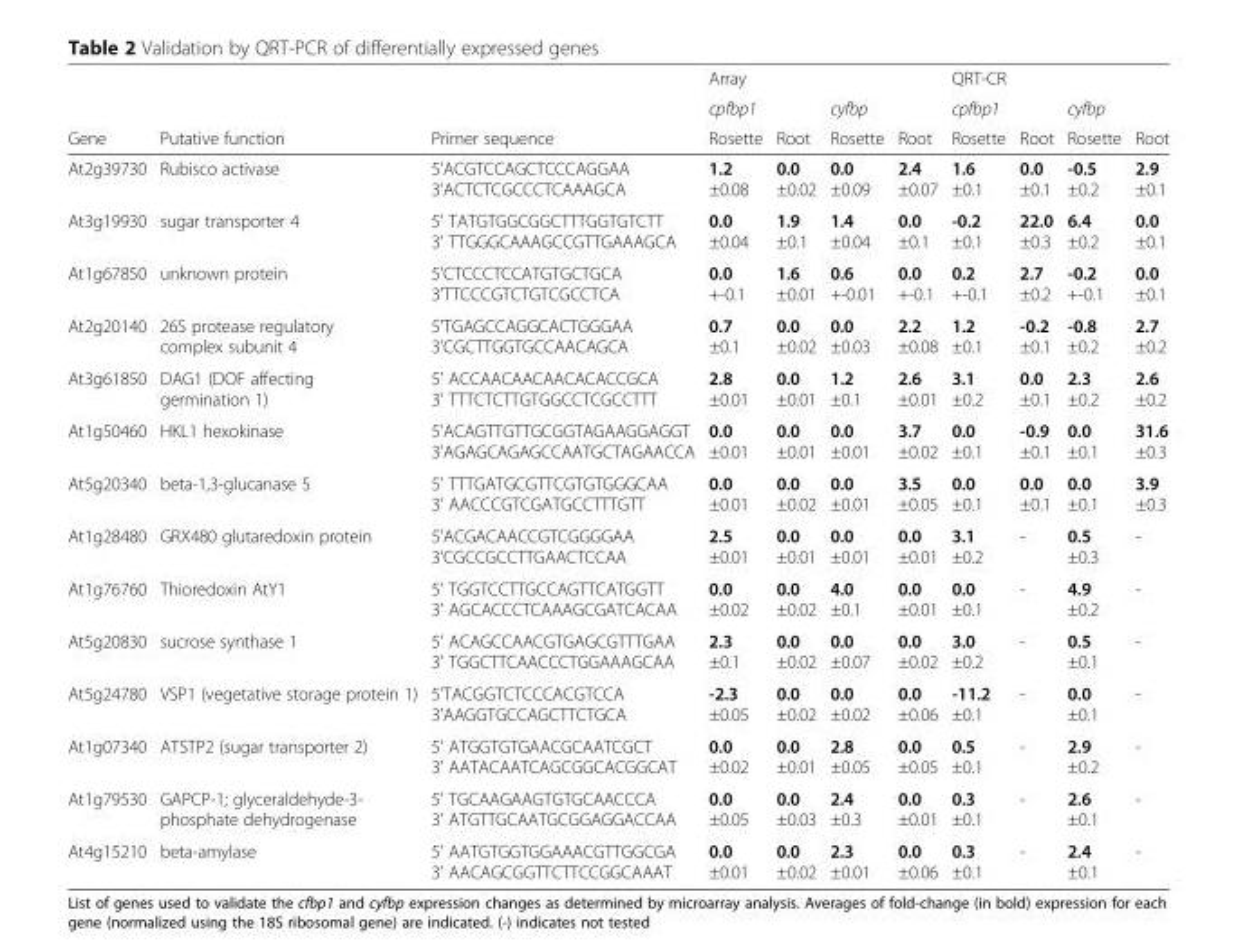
<table><thead><tr><td rowspan="3">Gene</td><td rowspan="3">Putative function</td><td rowspan="3">Primer sequence</td><td rowspan="3">Array cpfbp1 Rosette</td><td rowspan="3">Root</td><td rowspan="3">cyfbp Rosette</td><td rowspan="3">Root</td><td rowspan="3">QRT-CR cpfbp1 Rosette</td><td rowspan="3">Root</td><td rowspan="3">cyfbp Rosette</td><td rowspan="3">Root</td></tr><tr></tr><tr></tr></thead><tbody><tr><td>At2g39730</td><td>Rubisco activase</td><td>5&#x27;ACGTCCAGCTCCCAGGAA 3&#x27;ACTCTCGCCCTCAAAGCA</td><td>1.2 ±0.08</td><td>0.0 ±0.02</td><td>0.0 ±0.09</td><td>2.4 ±0.07</td><td>1.6 ±0.1</td><td>0.0 ±0.1</td><td>-0.5 ±0.2</td><td>2.9 ±0.1</td></tr><tr><td>At3g19930</td><td>sugar transporter 4</td><td>5&#x27; TATGTGGCGGCTTTGGTGTCTT 3&#x27; TTGGGCAAAGCCGTTGAAAGCA</td><td>0.0 ±0.04</td><td>1.9 ±0.1</td><td>1.4 ±0.04</td><td>0.0 ±0.1</td><td>-0.2 ±0.1</td><td>22.0 ±0.3</td><td>6.4 ±0.2</td><td>0.0 ±0.1</td></tr><tr><td>At1g67850</td><td>unknown protein</td><td>5&#x27;CTCCCTCCATGTGCTGCA 3&#x27;TTCCCGTCTGTCGCCTCA</td><td>0.0 +-0.1</td><td>1.6 ±0.01</td><td>0.6 +-0.01</td><td>0.0 +-0.1</td><td>0.2 +-0.1</td><td>2.7 ±0.2</td><td>-0.2 +-0.1</td><td>0.0 ±0.1</td></tr><tr><td>At2g20140</td><td>26S protease regulatory complex subunit 4</td><td>5&#x27;TGAGCCAGGCACTGGGAA 3&#x27;CGCTTGGTGCCAACAGCA</td><td>0.7 ±0.1</td><td>0.0 ±0.02</td><td>0.0 ±0.03</td><td>2.2 ±0.08</td><td>1.2 ±0.1</td><td>-0.2 ±0.1</td><td>-0.8 ±0.2</td><td>2.7 ±0.2</td></tr><tr><td>At3g61850</td><td>DAG1 (DOF affecting germination 1)</td><td>5&#x27; ACCAACAACAACACACCGCA 3&#x27; TTTCTCTTGTGGCCTCGCCTTT</td><td>2.8 ±0.01</td><td>0.0 ±0.01</td><td>1.2 ±0.1</td><td>2.6 ±0.01</td><td>3.1 ±0.2</td><td>0.0 ±0.1</td><td>2.3 ±0.2</td><td>2.6 ±0.2</td></tr><tr><td>At1g50460</td><td>HKL1 hexokinase</td><td>5&#x27;ACAGTTGTTGCGGTAGAAGGAGGT 3&#x27;AGAGCAGAGCCAATGCTAGAACCA</td><td>0.0 ±0.01</td><td>0.0 ±0.01</td><td>0.0 ±0.01</td><td>3.7 ±0.02</td><td>0.0 ±0.1</td><td>-0.9 ±0.1</td><td>0.0 ±0.1</td><td>31.6 ±0.3</td></tr><tr><td>At5g20340</td><td>beta-1,3-glucanase 5</td><td>5&#x27; TTTGATGCGTTCGTGTGGGCAA 3&#x27; AACCCGTCGATGCCTTTGTT</td><td>0.0 ±0.01</td><td>0.0 ±0.02</td><td>0.0 ±0.01</td><td>3.5 ±0.05</td><td>0.0 ±0.1</td><td>0.0 ±0.1</td><td>0.0 ±0.1</td><td>3.9 ±0.3</td></tr><tr><td>At1g28480</td><td>GRX480 glutaredoxin protein</td><td>5&#x27;ACGACAACCGTCGGGGAA 3&#x27;CGCCGCCTTGAACTCCAA</td><td>2.5 ±0.01</td><td>0.0 ±0.01</td><td>0.0 ±0.01</td><td>0.0 ±0.01</td><td>3.1 ±0.2</td><td>-</td><td>0.5 ±0.3</td><td>-</td></tr><tr><td>At1g76760</td><td>Thioredoxin AtY1</td><td>5&#x27; TGGTCCTTGCCAGTTCATGGTT 3&#x27; AGCACCCTCAAAGCGATCACAA</td><td>0.0 ±0.02</td><td>0.0 ±0.02</td><td>4.0 ±0.1</td><td>0.0 ±0.01</td><td>0.0 ±0.1</td><td>-</td><td>4.9 ±0.2</td><td>-</td></tr><tr><td>At5g20830</td><td>sucrose synthase 1</td><td>5&#x27; ACAGCCAACGTGAGCGTTTGAA 3&#x27; TGGCTTCAACCCTGGAAAGCAA</td><td>2.3 ±0.1</td><td>0.0 ±0.02</td><td>0.0 ±0.07</td><td>0.0 ±0.02</td><td>3.0 ±0.2</td><td>-</td><td>0.5 ±0.1</td><td>-</td></tr><tr><td>At5g24780</td><td>VSP1 (vegetative storage protein 1)</td><td>5&#x27;TACGGTCTCCCACGTCCA 3&#x27;AAGGTGCCAGCTTCTGCA</td><td>-2.3 ±0.05</td><td>0.0 ±0.02</td><td>0.0 ±0.02</td><td>0.0 ±0.06</td><td>-11.2 ±0.1</td><td>-</td><td>0.0 ±0.1</td><td>-</td></tr><tr><td>At1g07340</td><td>ATSTP2 (sugar transporter 2)</td><td>5&#x27; ATGGTGTGAACGCAATCGCT 3&#x27; AATACAATCAGCGGCACGGCAT</td><td>0.0 ±0.02</td><td>0.0 ±0.01</td><td>2.8 ±0.05</td><td>0.0 ±0.05</td><td>0.5 ±0.1</td><td>-</td><td>2.9 ±0.2</td><td>-</td></tr><tr><td>At1g79530</td><td>GAPCP-1; glyceraldehyde-3- phosphate dehydrogenase</td><td>5&#x27; TGCAAGAAGTGTGCAACCCA 3&#x27; ATGTTGCAATGCGGAGGACCAA</td><td>0.0 ±0.05</td><td>0.0 ±0.03</td><td>2.4 ±0.3</td><td>0.0 ±0.01</td><td>0.3 ±0.1</td><td>-</td><td>2.6 ±0.1</td><td>-</td></tr><tr><td>At4g15210</td><td>beta-amylase</td><td>5&#x27; AATGTGGTGGAAACGTTGGCGA 3&#x27; AACAGCGGTTCTTCCGGCAAAT</td><td>0.0 ±0.01</td><td>0.0 ±0.02</td><td>2.3 ±0.01</td><td>0.0 ±0.06</td><td>0.3 ±0.1</td><td>-</td><td>2.4 ±0.1</td><td>-</td></tr></tbody></table>